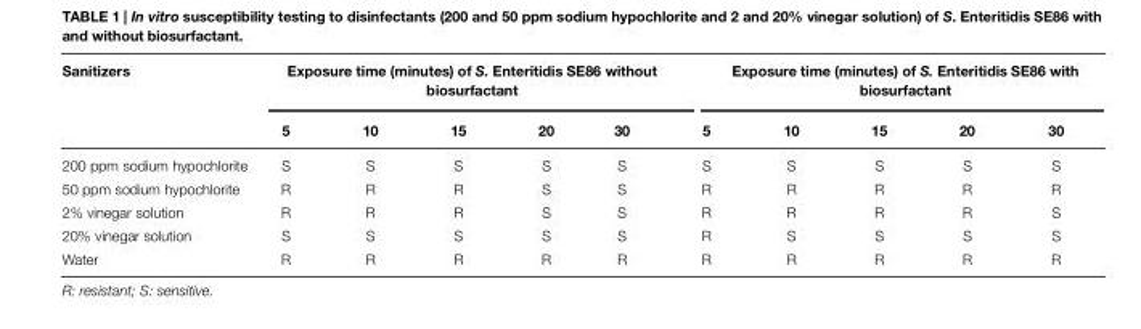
<table><thead><tr><td rowspan="2">Sanitizers</td><td colspan="5">Exposure time (minutes) of S. Enteritidis SE86 without biosurfactant</td><td colspan="5">Exposure time (minutes) of S. Enteritidis SE86 with biosurfactant</td></tr><tr><td>5</td><td>10</td><td>15</td><td>20</td><td>30</td><td>5</td><td>10</td><td>15</td><td>20</td><td>30</td></tr></thead><tbody><tr><td>200 ppm sodium hypochlorite</td><td>S</td><td>S</td><td>S</td><td>S</td><td>S</td><td>S</td><td>S</td><td>S</td><td>S</td><td>S</td></tr><tr><td>50 ppm sodium hypochlorite</td><td>R</td><td>R</td><td>R</td><td>S</td><td>S</td><td>R</td><td>R</td><td>R</td><td>R</td><td>R</td></tr><tr><td>2% vinegar solution</td><td>R</td><td>R</td><td>R</td><td>S</td><td>S</td><td>R</td><td>R</td><td>R</td><td>R</td><td>S</td></tr><tr><td>20% vinegar solution</td><td>S</td><td>S</td><td>S</td><td>S</td><td>S</td><td>R</td><td>S</td><td>S</td><td>S</td><td>S</td></tr><tr><td>Water</td><td>R</td><td>R</td><td>R</td><td>R</td><td>R</td><td>R</td><td>R</td><td>R</td><td>R</td><td>R</td></tr></tbody></table>